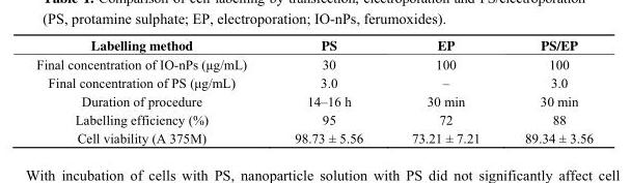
<table><thead><tr><td>Labelling method</td><td>PS</td><td>EP</td><td>PS/EP</td></tr></thead><tbody><tr><td>Final concentration of IO-nPs (μg/mL)</td><td>30</td><td>100</td><td>100</td></tr><tr><td>Final concentration of PS (μg/mL)</td><td>3.0</td><td>–</td><td>3.0</td></tr><tr><td>Duration of procedure</td><td>14–16 h</td><td>30 min</td><td>30 min</td></tr><tr><td>Labelling efficiency (%)</td><td>95</td><td>72</td><td>88</td></tr><tr><td>Cell viability (A 375M)</td><td>98.73 ± 5.56</td><td>73.21 ± 7.21</td><td>89.34 ± 3.56</td></tr></tbody></table>